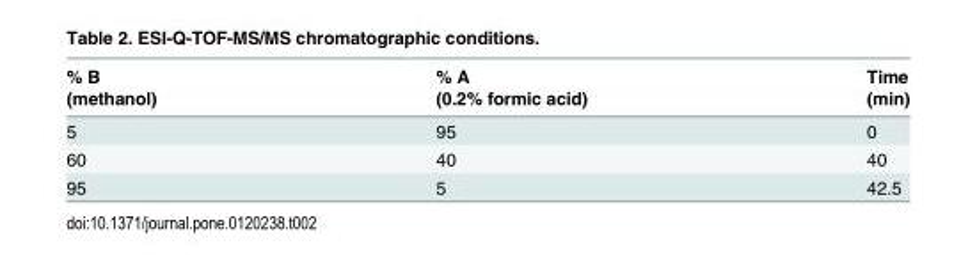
<table><thead><tr><td rowspan="2">% B (methanol)</td><td rowspan="2">% A (0.2% formic acid)</td><td rowspan="2">Time (min)</td></tr><tr></tr></thead><tbody><tr><td>5</td><td>95</td><td>0</td></tr><tr><td>60</td><td>40</td><td>40</td></tr><tr><td>95</td><td>5</td><td>42.5</td></tr></tbody></table>